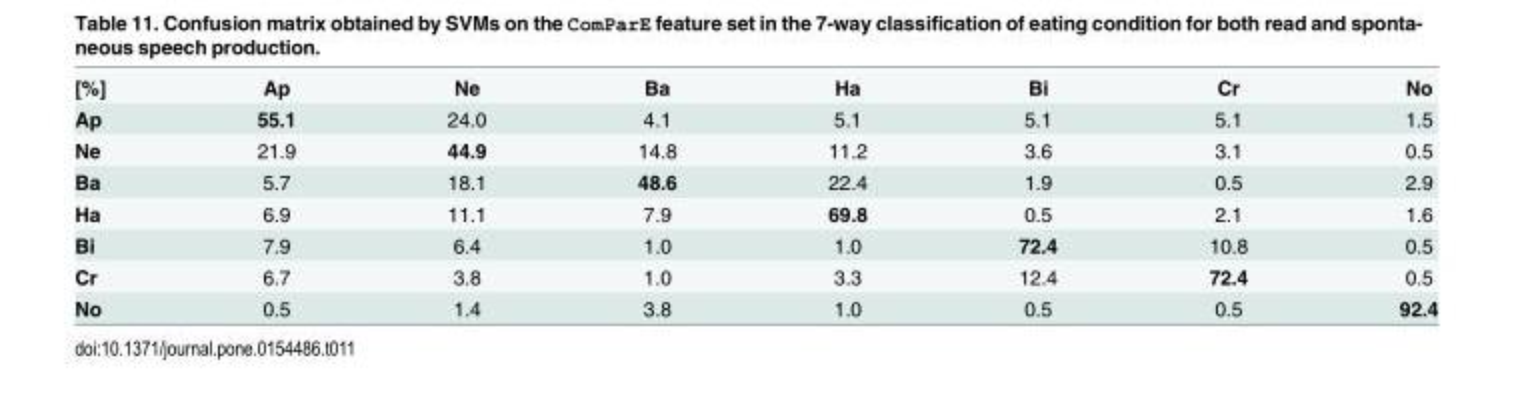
<table><tbody><tr><td>[%]</td><td>Ap</td><td>Ne</td><td>Ba</td><td>Ha</td><td>Bi</td><td>Cr</td><td>No</td></tr><tr><td>Ap</td><td>55.1</td><td>24.0</td><td>4.1</td><td>5.1</td><td>5.1</td><td>5.1</td><td>1.5</td></tr><tr><td>Ne</td><td>21.9</td><td>44.9</td><td>14.8</td><td>11.2</td><td>3.6</td><td>3.1</td><td>0.5</td></tr><tr><td>Ba</td><td>5.7</td><td>18.1</td><td>48.6</td><td>22.4</td><td>1.9</td><td>0.5</td><td>2.9</td></tr><tr><td>Ha</td><td>6.9</td><td>11.1</td><td>7.9</td><td>69.8</td><td>0.5</td><td>2.1</td><td>1.6</td></tr><tr><td>Bi</td><td>7.9</td><td>6.4</td><td>1.0</td><td>1.0</td><td>72.4</td><td>10.8</td><td>0.5</td></tr><tr><td>Cr</td><td>6.7</td><td>3.8</td><td>1.0</td><td>3.3</td><td>12.4</td><td>72.4</td><td>0.5</td></tr><tr><td>No</td><td>0.5</td><td>1.4</td><td>3.8</td><td>1.0</td><td>0.5</td><td>0.5</td><td>92.4</td></tr></tbody></table>